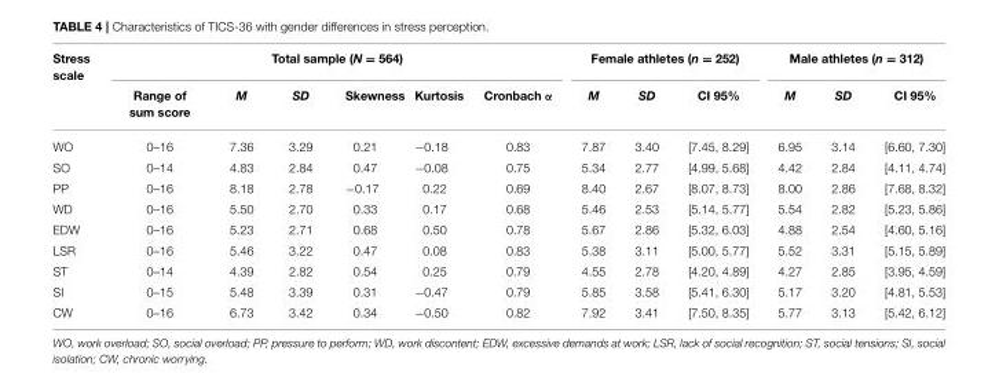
<table><thead><tr><td rowspan="2">Stress scale</td><td colspan="6">Total sample (N = 564)</td><td colspan="3">Female athletes (n = 252)</td><td colspan="3">Male athletes (n = 312)</td></tr><tr><td>Range of sum score</td><td>M</td><td>SD</td><td>Skewness</td><td>Kurtosis</td><td>Cronbach α</td><td>M</td><td>SD</td><td>CI 95%</td><td>M</td><td>SD</td><td>CI 95%</td></tr></thead><tbody><tr><td>WO</td><td>0–16</td><td>7.36</td><td>3.29</td><td>0.21</td><td>−0.18</td><td>0.83</td><td>7.87</td><td>3.40</td><td>[7.45, 8.29]</td><td>6.95</td><td>3.14</td><td>[6.60, 7.30]</td></tr><tr><td>SO</td><td>0–14</td><td>4.83</td><td>2.84</td><td>0.47</td><td>−0.08</td><td>0.75</td><td>5.34</td><td>2.77</td><td>[4.99, 5.68]</td><td>4.42</td><td>2.84</td><td>[4.11, 4.74]</td></tr><tr><td>PP</td><td>0–16</td><td>8.18</td><td>2.78</td><td>−0.17</td><td>0.22</td><td>0.69</td><td>8.40</td><td>2.67</td><td>[8.07, 8.73]</td><td>8.00</td><td>2.86</td><td>[7.68, 8.32]</td></tr><tr><td>WD</td><td>0–16</td><td>5.50</td><td>2.70</td><td>0.33</td><td>0.17</td><td>0.68</td><td>5.46</td><td>2.53</td><td>[5.14, 5.77]</td><td>5.54</td><td>2.82</td><td>[5.23, 5.86]</td></tr><tr><td>EDW</td><td>0–16</td><td>5.23</td><td>2.71</td><td>0.68</td><td>0.50</td><td>0.78</td><td>5.67</td><td>2.86</td><td>[5.32, 6.03]</td><td>4.88</td><td>2.54</td><td>[4.60, 5.16]</td></tr><tr><td>LSR</td><td>0–16</td><td>5.46</td><td>3.22</td><td>0.47</td><td>0.08</td><td>0.83</td><td>5.38</td><td>3.11</td><td>[5.00, 5.77]</td><td>5.52</td><td>3.31</td><td>[5.15, 5.89]</td></tr><tr><td>ST</td><td>0–14</td><td>4.39</td><td>2.82</td><td>0.54</td><td>0.25</td><td>0.79</td><td>4.55</td><td>2.78</td><td>[4.20, 4.89]</td><td>4.27</td><td>2.85</td><td>[3.95, 4.59]</td></tr><tr><td>SI</td><td>0–15</td><td>5.48</td><td>3.39</td><td>0.31</td><td>−0.47</td><td>0.79</td><td>5.85</td><td>3.58</td><td>[5.41, 6.30]</td><td>5.17</td><td>3.20</td><td>[4.81, 5.53]</td></tr><tr><td>CW</td><td>0–16</td><td>6.73</td><td>3.42</td><td>0.34</td><td>−0.50</td><td>0.82</td><td>7.92</td><td>3.41</td><td>[7.50, 8.35]</td><td>5.77</td><td>3.13</td><td>[5.42, 6.12]</td></tr></tbody></table>